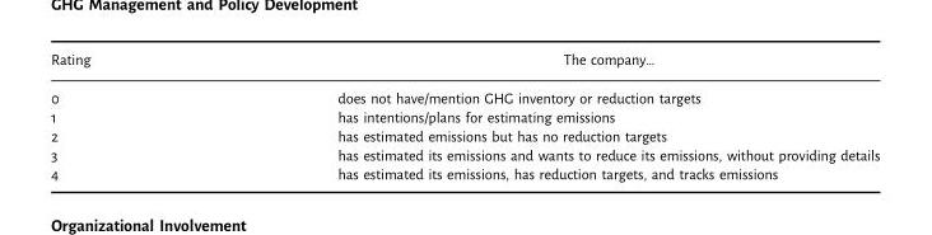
<table><thead><tr><td>Rating</td><td>The company…</td></tr></thead><tbody><tr><td>0</td><td>does not have/mention GHG inventory or reduction targets</td></tr><tr><td>1</td><td>has intentions/plans for estimating emissions</td></tr><tr><td>2</td><td>has estimated emissions but has no reduction targets</td></tr><tr><td>3</td><td>has estimated its emissions and wants to reduce its emissions, without providing details</td></tr><tr><td>4</td><td>has estimated its emissions, has reduction targets, and tracks emissions</td></tr></tbody></table>